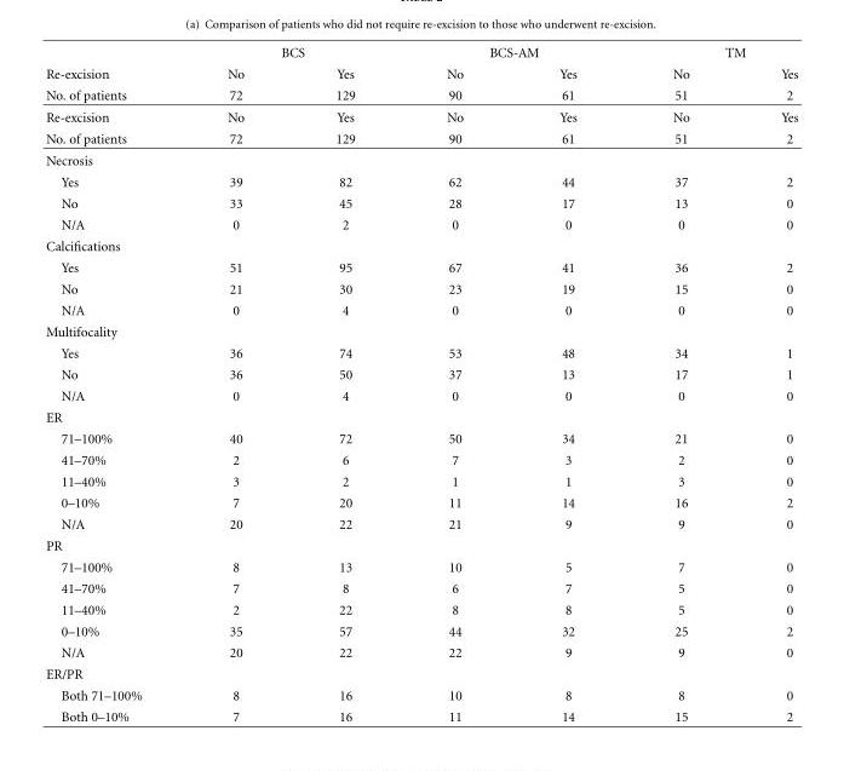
<table><thead><tr><td rowspan="2">Re-excision</td><td colspan="2">BCS</td><td colspan="2">BCS-AM</td><td colspan="2">TM</td></tr><tr><td>No</td><td>Yes</td><td>No</td><td>Yes</td><td>No</td><td>Yes</td></tr></thead><tbody><tr><td>No. of patients</td><td>72</td><td>129</td><td>90</td><td>61</td><td>51</td><td>2</td></tr><tr><td>Re-excision</td><td>No</td><td>Yes</td><td>No</td><td>Yes</td><td>No</td><td>Yes</td></tr><tr><td>No. of patients</td><td>72</td><td>129</td><td>90</td><td>61</td><td>51</td><td>2</td></tr><tr><td colspan="7">Necrosis</td></tr><tr><td>Yes</td><td>39</td><td>82</td><td>62</td><td>44</td><td>37</td><td>2</td></tr><tr><td>No</td><td>33</td><td>45</td><td>28</td><td>17</td><td>13</td><td>0</td></tr><tr><td>N/A</td><td>0</td><td>2</td><td>0</td><td>0</td><td>0</td><td>0</td></tr><tr><td colspan="7">Calcifications</td></tr><tr><td>Yes</td><td>51</td><td>95</td><td>67</td><td>41</td><td>36</td><td>2</td></tr><tr><td>No</td><td>21</td><td>30</td><td>23</td><td>19</td><td>15</td><td>0</td></tr><tr><td>N/A</td><td>0</td><td>4</td><td>0</td><td>0</td><td>0</td><td>0</td></tr><tr><td colspan="7">Multifocality</td></tr><tr><td>Yes</td><td>36</td><td>74</td><td>53</td><td>48</td><td>34</td><td>1</td></tr><tr><td>No</td><td>36</td><td>50</td><td>37</td><td>13</td><td>17</td><td>1</td></tr><tr><td>N/A</td><td>0</td><td>4</td><td>0</td><td>0</td><td>0</td><td>0</td></tr><tr><td colspan="7">ER</td></tr><tr><td>71–100%</td><td>40</td><td>72</td><td>50</td><td>34</td><td>21</td><td>0</td></tr><tr><td>41–70%</td><td>2</td><td>6</td><td>7</td><td>3</td><td>2</td><td>0</td></tr><tr><td>11–40%</td><td>3</td><td>2</td><td>1</td><td>1</td><td>3</td><td>0</td></tr><tr><td>0–10%</td><td>7</td><td>20</td><td>11</td><td>14</td><td>16</td><td>2</td></tr><tr><td>N/A</td><td>20</td><td>22</td><td>21</td><td>9</td><td>9</td><td>0</td></tr><tr><td colspan="7">PR</td></tr><tr><td>71–100%</td><td>8</td><td>13</td><td>10</td><td>5</td><td>7</td><td>0</td></tr><tr><td>41–70%</td><td>7</td><td>8</td><td>6</td><td>7</td><td>5</td><td>0</td></tr><tr><td>11–40%</td><td>2</td><td>22</td><td>8</td><td>8</td><td>5</td><td>0</td></tr><tr><td>0–10%</td><td>35</td><td>57</td><td>44</td><td>32</td><td>25</td><td>2</td></tr><tr><td>N/A</td><td>20</td><td>22</td><td>22</td><td>9</td><td>9</td><td>0</td></tr><tr><td colspan="7">ER/PR</td></tr><tr><td>Both 71–100%</td><td>8</td><td>16</td><td>10</td><td>8</td><td>8</td><td>0</td></tr><tr><td>Both 0–10%</td><td>7</td><td>16</td><td>11</td><td>14</td><td>15</td><td>2</td></tr></tbody></table>